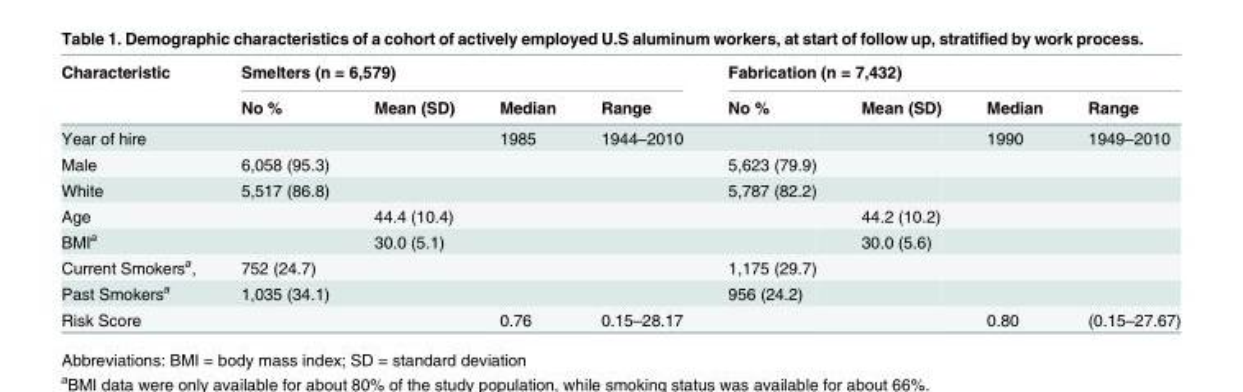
<table><thead><tr><td rowspan="2">Characteristic</td><td colspan="4">Smelters (n = 6,579)</td><td colspan="4">Fabrication (n = 7,432)</td></tr><tr><td>No %</td><td>Mean (SD)</td><td>Median</td><td>Range</td><td>No %</td><td>Mean (SD)</td><td>Median</td><td>Range</td></tr></thead><tbody><tr><td>Year of hire</td><td></td><td></td><td>1985</td><td>1944–2010</td><td></td><td></td><td>1990</td><td>1949–2010</td></tr><tr><td>Male</td><td>6,058 (95.3)</td><td></td><td></td><td></td><td>5,623 (79.9)</td><td></td><td></td><td></td></tr><tr><td>White</td><td>5,517 (86.8)</td><td></td><td></td><td></td><td>5,787 (82.2)</td><td></td><td></td><td></td></tr><tr><td>Age</td><td></td><td>44.4 (10.4)</td><td></td><td></td><td></td><td>44.2 (10.2)</td><td></td><td></td></tr><tr><td>BMI<sup>a</sup></td><td></td><td>30.0 (5.1)</td><td></td><td></td><td></td><td>30.0 (5.6)</td><td></td><td></td></tr><tr><td>Current Smokers<sup>a</sup>,</td><td>752 (24.7)</td><td></td><td></td><td></td><td>1,175 (29.7)</td><td></td><td></td><td></td></tr><tr><td>Past Smokers<sup>a</sup></td><td>1,035 (34.1)</td><td></td><td></td><td></td><td>956 (24.2)</td><td></td><td></td><td></td></tr><tr><td>Risk Score</td><td></td><td></td><td>0.76</td><td>0.15–28.17</td><td></td><td></td><td>0.80</td><td>(0.15–27.67)</td></tr></tbody></table>